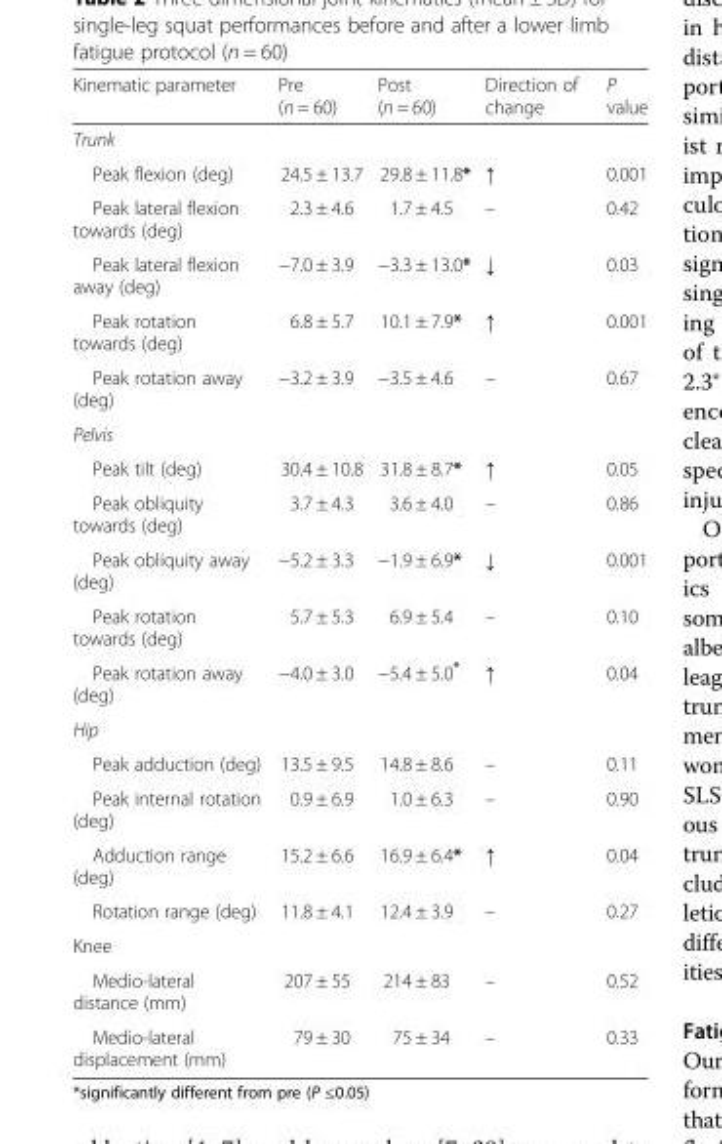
<table><thead><tr><td>Kinematic parameter</td><td>Pre (n = 60)</td><td>Post (n = 60)</td><td>Direction of change</td><td>P value</td></tr></thead><tbody><tr><td colspan="5">Trunk</td></tr><tr><td>Peak flexion (deg)</td><td>24.5 ± 13.7</td><td>29.8 ± 11.8*</td><td>↑</td><td>0.001</td></tr><tr><td>Peak lateral flexion towards (deg)</td><td>2.3 ± 4.6</td><td>1.7 ± 4.5</td><td>–</td><td>0.42</td></tr><tr><td>Peak lateral flexion away (deg)</td><td>−7.0 ± 3.9</td><td>−3.3 ± 13.0*</td><td>↓</td><td>0.03</td></tr><tr><td>Peak rotation towards (deg)</td><td>6.8 ± 5.7</td><td>10.1 ± 7.9*</td><td>↑</td><td>0.001</td></tr><tr><td>Peak rotation away (deg)</td><td>−3.2 ± 3.9</td><td>−3.5 ± 4.6</td><td>–</td><td>0.67</td></tr><tr><td colspan="5">Pelvis</td></tr><tr><td>Peak tilt (deg)</td><td>30.4 ± 10.8</td><td>31.8 ± 8.7*</td><td>↑</td><td>0.05</td></tr><tr><td>Peak obliquity towards (deg)</td><td>3.7 ± 4.3</td><td>3.6 ± 4.0</td><td>–</td><td>0.86</td></tr><tr><td>Peak obliquity away (deg)</td><td>−5.2 ± 3.3</td><td>−1.9 ± 6.9*</td><td>↓</td><td>0.001</td></tr><tr><td>Peak rotation towards (deg)</td><td>5.7 ± 5.3</td><td>6.9 ± 5.4</td><td>–</td><td>0.10</td></tr><tr><td>Peak rotation away (deg)</td><td>−4.0 ± 3.0</td><td>−5.4 ± 5.0*</td><td>↑</td><td>0.04</td></tr><tr><td colspan="5">Hip</td></tr><tr><td>Peak adduction (deg)</td><td>13.5 ± 9.5</td><td>14.8 ± 8.6</td><td>–</td><td>0.11</td></tr><tr><td>Peak internal rotation (deg)</td><td>0.9 ± 6.9</td><td>1.0 ± 6.3</td><td>–</td><td>0.90</td></tr><tr><td>Adduction range (deg)</td><td>15.2 ± 6.6</td><td>16.9 ± 6.4*</td><td>↑</td><td>0.04</td></tr><tr><td>Rotation range (deg)</td><td>11.8 ± 4.1</td><td>12.4 ± 3.9</td><td>–</td><td>0.27</td></tr><tr><td colspan="5">Knee</td></tr><tr><td>Medio-lateral distance (mm)</td><td>207 ± 55</td><td>214 ± 83</td><td>–</td><td>0.52</td></tr><tr><td>Medio-lateral displacement (mm)</td><td>79 ± 30</td><td>75 ± 34</td><td>–</td><td>0.33</td></tr></tbody></table>